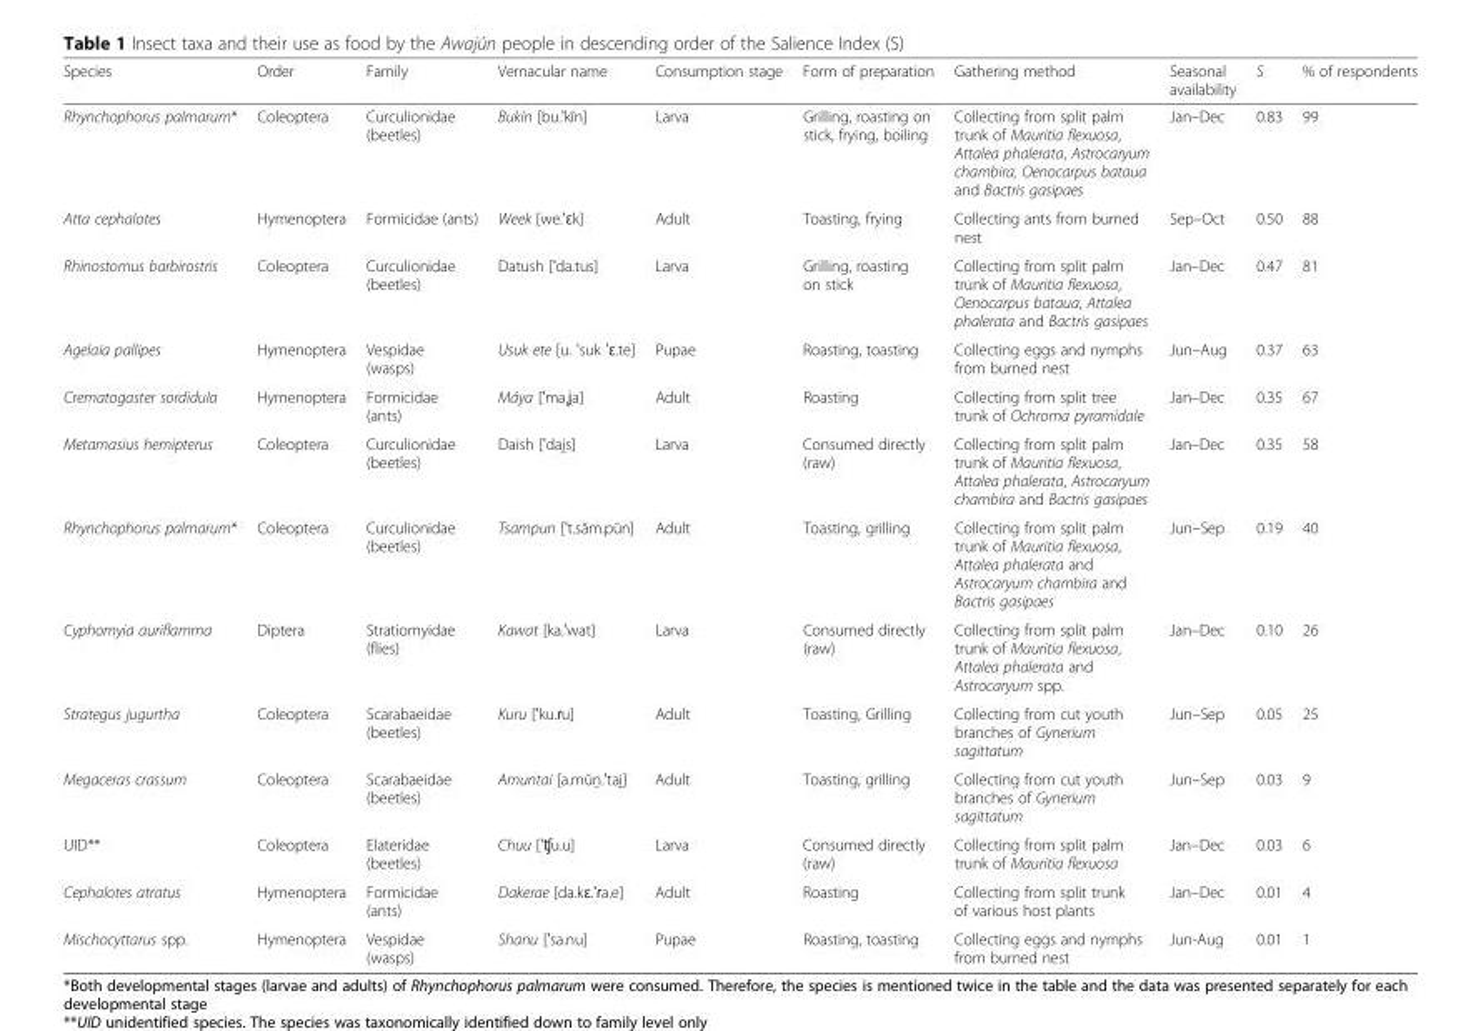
<table><thead><tr><td>Species</td><td>Order</td><td>Family</td><td>Vernacular name</td><td>Consumption stage</td><td>Form of preparation</td><td>Gathering method</td><td>Seasonal availability</td><td>S</td><td>% of respondents</td></tr></thead><tbody><tr><td>Rhynchophorus palmarum*</td><td>Coleoptera</td><td>Curculionidae (beetles)</td><td>Bukín [bu.ˈkĩn]</td><td>Larva</td><td>Grilling, roasting on stick, frying, boiling</td><td>Collecting from split palm trunk of Mauritia flexuosa, Attalea phalerata, Astrocaryum chambira, Oenocarpus bataua and Bactris gasipaes</td><td>Jan–Dec</td><td>0.83</td><td>99</td></tr><tr><td>Atta cephalotes</td><td>Hymenoptera</td><td>Formicidae (ants)</td><td>Week [we.ˈɛk]</td><td>Adult</td><td>Toasting, frying</td><td>Collecting ants from burned nest</td><td>Sep–Oct</td><td>0.50</td><td>88</td></tr><tr><td>Rhinostomus barbirostris</td><td>Coleoptera</td><td>Curculionidae (beetles)</td><td>Datush [ˈda.tus]</td><td>Larva</td><td>Grilling, roasting on stick</td><td>Collecting from split palm trunk of Mauritia flexuosa, Oenocarpus bataua, Attalea phalerata and Bactris gasipaes</td><td>Jan–Dec</td><td>0.47</td><td>81</td></tr><tr><td>Agelaia pallipes</td><td>Hymenoptera</td><td>Vespidae (wasps)</td><td>Usuk ete [u. ˈsuk ˈɛ.te]</td><td>Pupae</td><td>Roasting, toasting</td><td>Collecting eggs and nymphs from burned nest</td><td>Jun–Aug</td><td>0.37</td><td>63</td></tr><tr><td>Crematogaster sordidula</td><td>Hymenoptera</td><td>Formicidae (ants)</td><td>Máya [ˈma.ʝa]</td><td>Adult</td><td>Roasting</td><td>Collecting from split tree trunk of Ochroma pyramidale</td><td>Jan–Dec</td><td>0.35</td><td>67</td></tr><tr><td>Metamasius hemipterus</td><td>Coleoptera</td><td>Curculionidae (beetles)</td><td>Daish [ˈdai ̯s]</td><td>Larva</td><td>Consumed directly (raw)</td><td>Collecting from split palm trunk of Mauritia flexuosa, Attalea phalerata, Astrocaryum chambira and Bactris gasipaes</td><td>Jan–Dec</td><td>0.35</td><td>58</td></tr><tr><td>Rhynchophorus palmarum*</td><td>Coleoptera</td><td>Curculionidae (beetles)</td><td>Tsampun [ˈt.sãm.pũn]</td><td>Adult</td><td>Toasting, grilling</td><td>Collecting from split palm trunk of Mauritia flexuosa, Attalea phalerata and Astrocaryum chambira and Bactris gasipaes</td><td>Jun–Sep</td><td>0.19</td><td>40</td></tr><tr><td>Cyphomyia auriflamma</td><td>Diptera</td><td>Stratiomyidae (flies)</td><td>Kawat [ka.ˈwat]</td><td>Larva</td><td>Consumed directly (raw)</td><td>Collecting from split palm trunk of Mauritia flexuosa, Attalea phalerata and Astrocaryum spp.</td><td>Jan–Dec</td><td>0.10</td><td>26</td></tr><tr><td>Strategus jugurtha</td><td>Coleoptera</td><td>Scarabaeidae (beetles)</td><td>Kuru [ˈku.ɾu]</td><td>Adult</td><td>Toasting, Grilling</td><td>Collecting from cut youth branches of Gynerium sagittatum</td><td>Jun–Sep</td><td>0.05</td><td>25</td></tr><tr><td>Megaceras crassum</td><td>Coleoptera</td><td>Scarabaeidae (beetles)</td><td>Amuntai [a.mũn̪.ˈtai ̯]</td><td>Adult</td><td>Toasting, grilling</td><td>Collecting from cut youth branches of Gynerium sagittatum</td><td>Jun–Sep</td><td>0.03</td><td>9</td></tr><tr><td>UID**</td><td>Coleoptera</td><td>Elateridae (beetles)</td><td>Chuu [ˈʧu.u]</td><td>Larva</td><td>Consumed directly (raw)</td><td>Collecting from split palm trunk of Mauritia flexuosa</td><td>Jan–Dec</td><td>0.03</td><td>6</td></tr><tr><td>Cephalotes atratus</td><td>Hymenoptera</td><td>Formicidae (ants)</td><td>Dakerae [da.kɛ.ˈɾa.e]</td><td>Adult</td><td>Roasting</td><td>Collecting from split trunk of various host plants</td><td>Jan–Dec</td><td>0.01</td><td>4</td></tr><tr><td>Mischocyttarus spp.</td><td>Hymenoptera</td><td>Vespidae (wasps)</td><td>Shanu [ˈsa.nu]</td><td>Pupae</td><td>Roasting, toasting</td><td>Collecting eggs and nymphs from burned nest</td><td>Jun-Aug</td><td>0.01</td><td>1</td></tr></tbody></table>